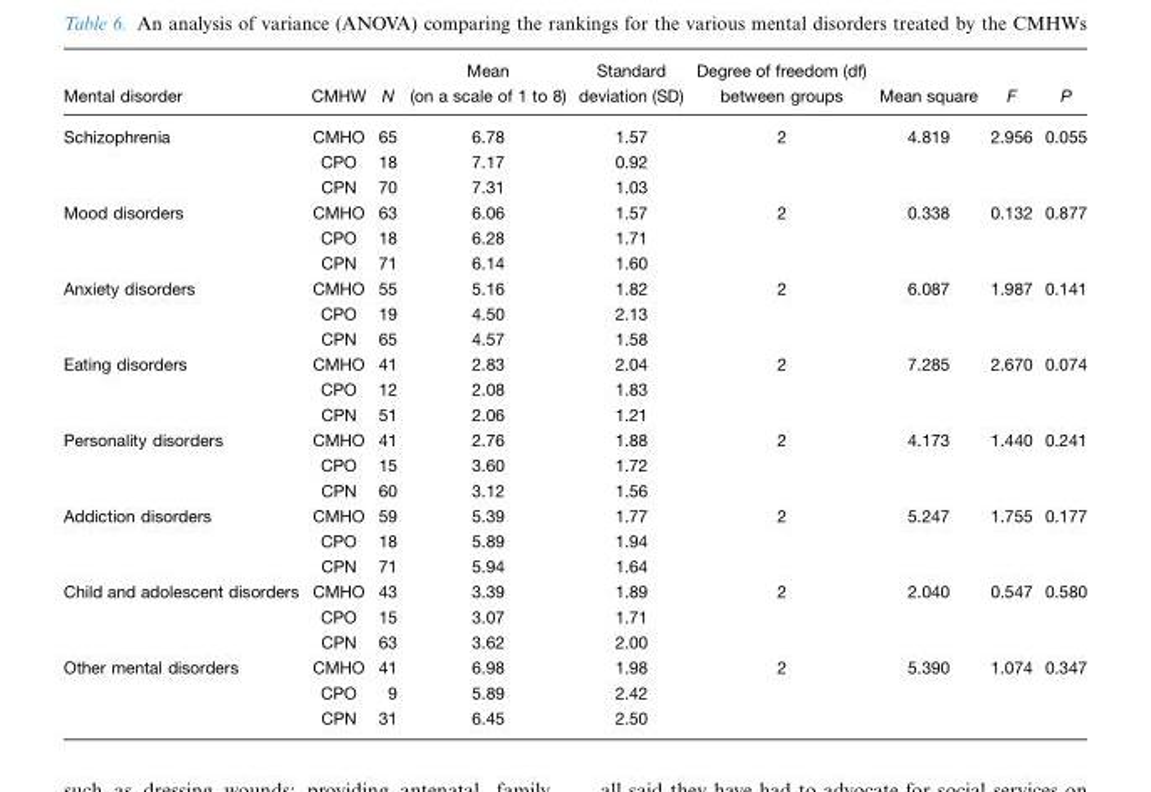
<table><thead><tr><td>Mental disorder</td><td>CMHW</td><td>N</td><td>Mean (on a scale of 1 to 8)</td><td>Standard deviation (SD)</td><td>Degree of freedom (df) between groups</td><td>Mean square</td><td>F</td><td>P</td></tr></thead><tbody><tr><td rowspan="3">Schizophrenia</td><td>CMHO</td><td>65</td><td>6.78</td><td>1.57</td><td>2</td><td>4.819</td><td>2.956</td><td>0.055</td></tr><tr><td>CPO</td><td>18</td><td>7.17</td><td>0.92</td><td></td><td></td><td></td><td></td></tr><tr><td>CPN</td><td>70</td><td>7.31</td><td>1.03</td><td></td><td></td><td></td><td></td></tr><tr><td rowspan="3">Mood disorders</td><td>CMHO</td><td>63</td><td>6.06</td><td>1.57</td><td>2</td><td>0.338</td><td>0.132</td><td>0.877</td></tr><tr><td>CPO</td><td>18</td><td>6.28</td><td>1.71</td><td></td><td></td><td></td><td></td></tr><tr><td>CPN</td><td>71</td><td>6.14</td><td>1.60</td><td></td><td></td><td></td><td></td></tr><tr><td rowspan="3">Anxiety disorders</td><td>CMHO</td><td>55</td><td>5.16</td><td>1.82</td><td>2</td><td>6.087</td><td>1.987</td><td>0.141</td></tr><tr><td>CPO</td><td>19</td><td>4.50</td><td>2.13</td><td></td><td></td><td></td><td></td></tr><tr><td>CPN</td><td>65</td><td>4.57</td><td>1.58</td><td></td><td></td><td></td><td></td></tr><tr><td rowspan="3">Eating disorders</td><td>CMHO</td><td>41</td><td>2.83</td><td>2.04</td><td>2</td><td>7.285</td><td>2.670</td><td>0.074</td></tr><tr><td>CPO</td><td>12</td><td>2.08</td><td>1.83</td><td></td><td></td><td></td><td></td></tr><tr><td>CPN</td><td>51</td><td>2.06</td><td>1.21</td><td></td><td></td><td></td><td></td></tr><tr><td rowspan="3">Personality disorders</td><td>CMHO</td><td>41</td><td>2.76</td><td>1.88</td><td>2</td><td>4.173</td><td>1.440</td><td>0.241</td></tr><tr><td>CPO</td><td>15</td><td>3.60</td><td>1.72</td><td></td><td></td><td></td><td></td></tr><tr><td>CPN</td><td>60</td><td>3.12</td><td>1.56</td><td></td><td></td><td></td><td></td></tr><tr><td rowspan="3">Addiction disorders</td><td>CMHO</td><td>59</td><td>5.39</td><td>1.77</td><td>2</td><td>5.247</td><td>1.755</td><td>0.177</td></tr><tr><td>CPO</td><td>18</td><td>5.89</td><td>1.94</td><td></td><td></td><td></td><td></td></tr><tr><td>CPN</td><td>71</td><td>5.94</td><td>1.64</td><td></td><td></td><td></td><td></td></tr><tr><td rowspan="3">Child and adolescent disorders</td><td>CMHO</td><td>43</td><td>3.39</td><td>1.89</td><td>2</td><td>2.040</td><td>0.547</td><td>0.580</td></tr><tr><td>CPO</td><td>15</td><td>3.07</td><td>1.71</td><td></td><td></td><td></td><td></td></tr><tr><td>CPN</td><td>63</td><td>3.62</td><td>2.00</td><td></td><td></td><td></td><td></td></tr><tr><td rowspan="3">Other mental disorders</td><td>CMHO</td><td>41</td><td>6.98</td><td>1.98</td><td>2</td><td>5.390</td><td>1.074</td><td>0.347</td></tr><tr><td>CPO</td><td>9</td><td>5.89</td><td>2.42</td><td></td><td></td><td></td><td></td></tr><tr><td>CPN</td><td>31</td><td>6.45</td><td>2.50</td><td></td><td></td><td></td><td></td></tr></tbody></table>